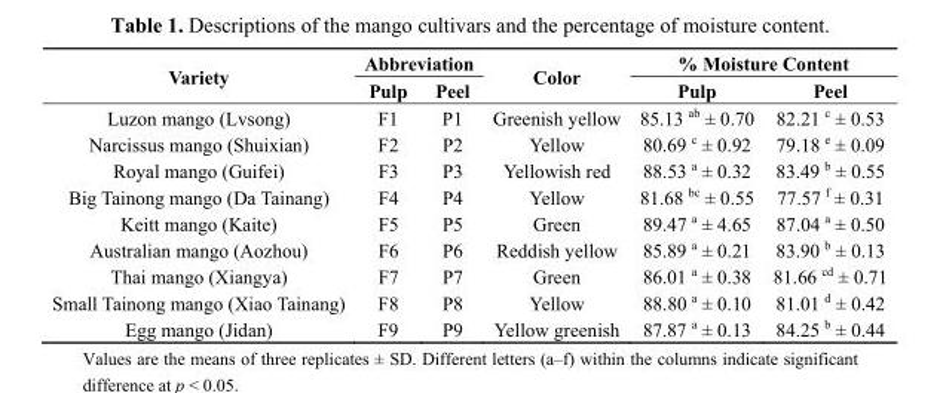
<table><thead><tr><td rowspan="2">Variety</td><td colspan="2">Abbreviation</td><td rowspan="2">Color</td><td colspan="2">% Moisture Content</td></tr><tr><td>Pulp</td><td>Peel</td><td>Pulp</td><td>Peel</td></tr></thead><tbody><tr><td>Luzon mango (Lvsong)</td><td>F1</td><td>P1</td><td>Greenish yellow</td><td>85.13 <sup>ab</sup> ± 0.70</td><td>82.21 <sup>c</sup> ± 0.53</td></tr><tr><td>Narcissus mango (Shuixian)</td><td>F2</td><td>P2</td><td>Yellow</td><td>80.69 <sup>c</sup> ± 0.92</td><td>79.18 <sup>e</sup> ± 0.09</td></tr><tr><td>Royal mango (Guifei)</td><td>F3</td><td>P3</td><td>Yellowish red</td><td>88.53 <sup>a</sup> ± 0.32</td><td>83.49 <sup>b</sup> ± 0.55</td></tr><tr><td>Big Tainong mango (Da Tainang)</td><td>F4</td><td>P4</td><td>Yellow</td><td>81.68 <sup>bc</sup> ± 0.55</td><td>77.57 <sup>f</sup> ± 0.31</td></tr><tr><td>Keitt mango (Kaite)</td><td>F5</td><td>P5</td><td>Green</td><td>89.47 <sup>a</sup> ± 4.65</td><td>87.04 <sup>a</sup> ± 0.50</td></tr><tr><td>Australian mango (Aozhou)</td><td>F6</td><td>P6</td><td>Reddish yellow</td><td>85.89 <sup>a</sup> ± 0.21</td><td>83.90 <sup>b</sup> ± 0.13</td></tr><tr><td>Thai mango (Xiangya)</td><td>F7</td><td>P7</td><td>Green</td><td>86.01 <sup>a</sup> ± 0.38</td><td>81.66 <sup>cd</sup> ± 0.71</td></tr><tr><td>Small Tainong mango (Xiao Tainang)</td><td>F8</td><td>P8</td><td>Yellow</td><td>88.80 <sup>a</sup> ± 0.10</td><td>81.01 <sup>d</sup> ± 0.42</td></tr><tr><td>Egg mango (Jidan)</td><td>F9</td><td>P9</td><td>Yellow greenish</td><td>87.87 <sup>a</sup> ± 0.13</td><td>84.25 <sup>b</sup> ± 0.44</td></tr></tbody></table>